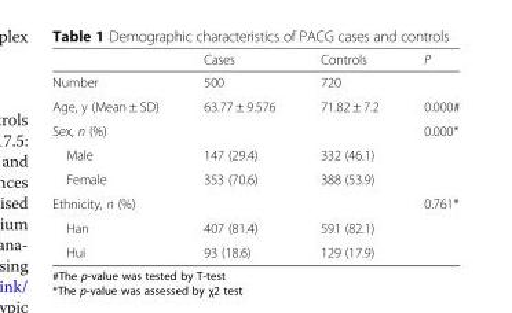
<table><thead><tr><td></td><td>Cases</td><td>Controls</td><td>P</td></tr></thead><tbody><tr><td>Number</td><td>500</td><td>720</td><td></td></tr><tr><td>Age, y (Mean ± SD)</td><td>63.77 ± 9.576</td><td>71.82 ± 7.2</td><td>0.000#</td></tr><tr><td>Sex, n (%)</td><td></td><td></td><td>0.000*</td></tr><tr><td>Male</td><td>147 (29.4)</td><td>332 (46.1)</td><td></td></tr><tr><td>Female</td><td>353 (70.6)</td><td>388 (53.9)</td><td></td></tr><tr><td>Ethnicity, n (%)</td><td></td><td></td><td>0.761*</td></tr><tr><td>Han</td><td>407 (81.4)</td><td>591 (82.1)</td><td></td></tr><tr><td>Hui</td><td>93 (18.6)</td><td>129 (17.9)</td><td></td></tr></tbody></table>